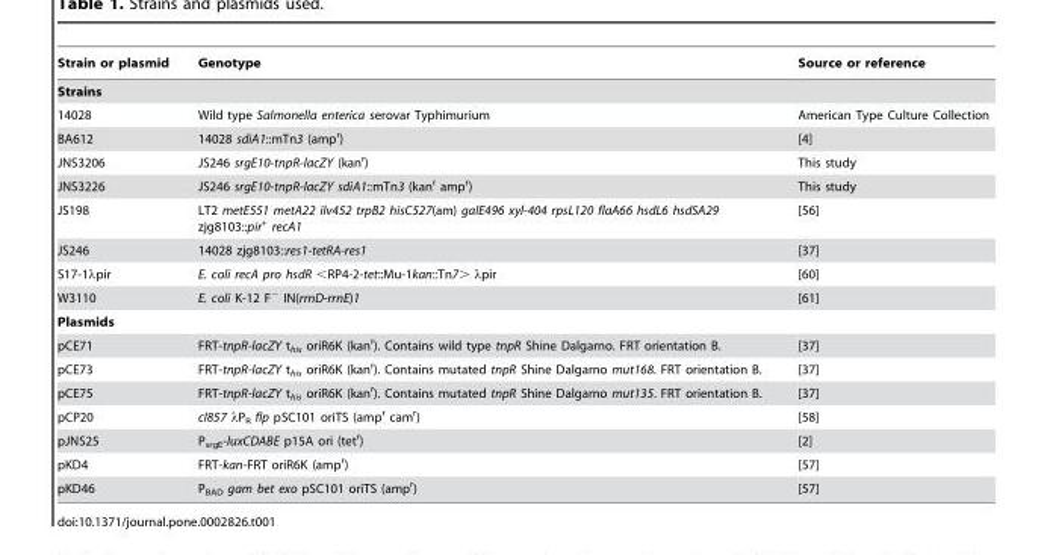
<table><thead><tr><td>Strain or plasmid</td><td>Genotype</td><td>Source or reference</td></tr></thead><tbody><tr><td colspan="3">Strains</td></tr><tr><td>14028</td><td>Wild type Salmonella enterica serovar Typhimurium</td><td>American Type Culture Collection</td></tr><tr><td>BA612</td><td>14028 sdiA1::mTn3 (amp<sup>r</sup>)</td><td>[4]</td></tr><tr><td>JNS3206</td><td>JS246 srgE10-tnpR-lacZY (kan<sup>r</sup>)</td><td>This study</td></tr><tr><td>JNS3226</td><td>JS246 srgE10-tnpR-lacZY sdiA1::mTn3 (kan<sup>r</sup> amp<sup>r</sup>)</td><td>This study</td></tr><tr><td>JS198</td><td>LT2 metE551 metA22 ilv452 trpB2 hisC527(am) galE496 xyl-404 rpsL120 flaA66 hsdL6 hsdSA29 zjg8103::pir<sup>+</sup> recA1</td><td>[56]</td></tr><tr><td>JS246</td><td>14028 zjg8103::res1-tetRA-res1</td><td>[37]</td></tr><tr><td>S17-1λpir</td><td>E. coli recA pro hsdR &lt;RP4-2-tet::Mu-1kan::Tn7&gt; λpir</td><td>[60]</td></tr><tr><td>W3110</td><td>E. coli K-12 F<sup>−</sup> IN(rrnD-rrnE)1</td><td>[61]</td></tr><tr><td colspan="3">Plasmids</td></tr><tr><td>pCE71</td><td>FRT-tnpR-lacZY t<sub>his</sub> oriR6K (kan<sup>r</sup>). Contains wild type tnpR Shine Dalgarno. FRT orientation B.</td><td>[37]</td></tr><tr><td>pCE73</td><td>FRT-tnpR-lacZY t<sub>his</sub> oriR6K (kan<sup>r</sup>). Contains mutated tnpR Shine Dalgarno mut168. FRT orientation B.</td><td>[37]</td></tr><tr><td>pCE75</td><td>FRT-tnpR-lacZY t<sub>his</sub> oriR6K (kan<sup>r</sup>). Contains mutated tnpR Shine Dalgarno mut135. FRT orientation B.</td><td>[37]</td></tr><tr><td>pCP20</td><td>cI857 λP<sub>R</sub> flp pSC101 oriTS (amp<sup>r</sup> cam<sup>r</sup>)</td><td>[58]</td></tr><tr><td>pJNS25</td><td>P<sub>srgE</sub>-luxCDABE p15A ori (tet<sup>r</sup>)</td><td>[2]</td></tr><tr><td>pKD4</td><td>FRT-kan-FRT oriR6K (amp<sup>r</sup>)</td><td>[57]</td></tr><tr><td>pKD46</td><td>P<sub>BAD</sub> gam bet exo pSC101 oriTS (amp<sup>r</sup>)</td><td>[57]</td></tr></tbody></table>